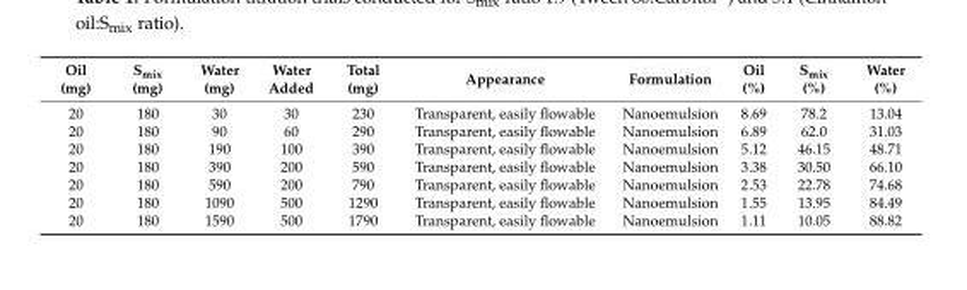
<table><thead><tr><td>Oil (mg)</td><td>S<sub>mix</sub> (mg)</td><td>Water (mg)</td><td>Water Added</td><td>Total (mg)</td><td>Appearance</td><td>Formulation</td><td>Oil (%)</td><td>S<sub>mix</sub> (%)</td><td>Water (%)</td></tr></thead><tbody><tr><td>20</td><td>180</td><td>30</td><td>30</td><td>230</td><td>Transparent, easily flowable</td><td>Nanoemulsion</td><td>8.69</td><td>78.2</td><td>13.04</td></tr><tr><td>20</td><td>180</td><td>90</td><td>60</td><td>290</td><td>Transparent, easily flowable</td><td>Nanoemulsion</td><td>6.89</td><td>62.0</td><td>31.03</td></tr><tr><td>20</td><td>180</td><td>190</td><td>100</td><td>390</td><td>Transparent, easily flowable</td><td>Nanoemulsion</td><td>5.12</td><td>46.15</td><td>48.71</td></tr><tr><td>20</td><td>180</td><td>390</td><td>200</td><td>590</td><td>Transparent, easily flowable</td><td>Nanoemulsion</td><td>3.38</td><td>30.50</td><td>66.10</td></tr><tr><td>20</td><td>180</td><td>590</td><td>200</td><td>790</td><td>Transparent, easily flowable</td><td>Nanoemulsion</td><td>2.53</td><td>22.78</td><td>74.68</td></tr><tr><td>20</td><td>180</td><td>1090</td><td>500</td><td>1290</td><td>Transparent, easily flowable</td><td>Nanoemulsion</td><td>1.55</td><td>13.95</td><td>84.49</td></tr><tr><td>20</td><td>180</td><td>1590</td><td>500</td><td>1790</td><td>Transparent, easily flowable</td><td>Nanoemulsion</td><td>1.11</td><td>10.05</td><td>88.82</td></tr></tbody></table>